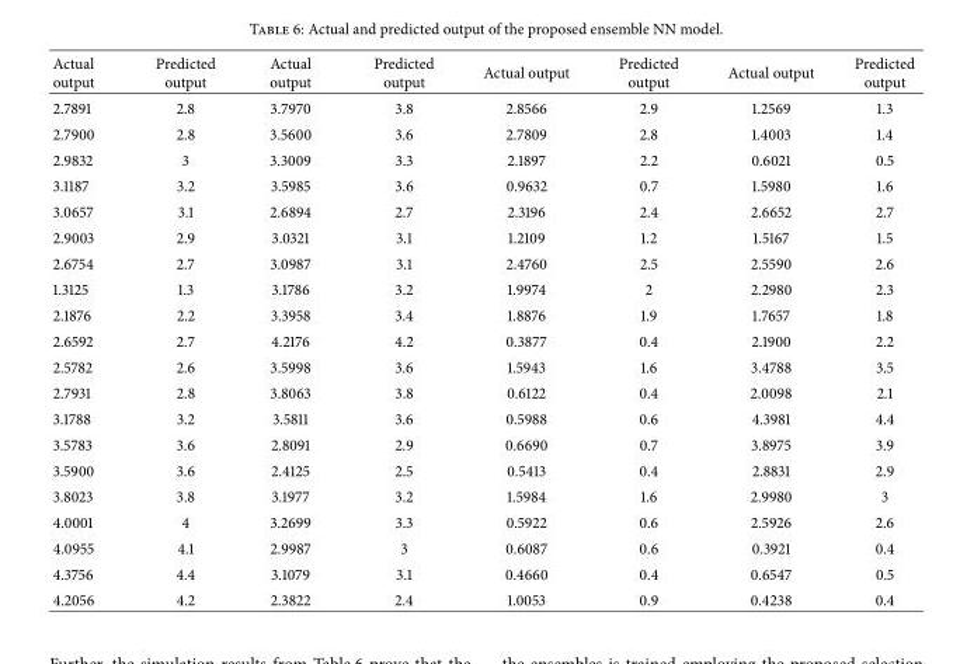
<table><thead><tr><td>Actual output</td><td>Predicted output</td><td>Actual output</td><td>Predicted output</td><td>Actual output</td><td>Predicted output</td><td>Actual output</td><td>Predicted output</td></tr></thead><tbody><tr><td>2.7891</td><td>2.8</td><td>3.7970</td><td>3.8</td><td>2.8566</td><td>2.9</td><td>1.2569</td><td>1.3</td></tr><tr><td>2.7900</td><td>2.8</td><td>3.5600</td><td>3.6</td><td>2.7809</td><td>2.8</td><td>1.4003</td><td>1.4</td></tr><tr><td>2.9832</td><td>3</td><td>3.3009</td><td>3.3</td><td>2.1897</td><td>2.2</td><td>0.6021</td><td>0.5</td></tr><tr><td>3.1187</td><td>3.2</td><td>3.5985</td><td>3.6</td><td>0.9632</td><td>0.7</td><td>1.5980</td><td>1.6</td></tr><tr><td>3.0657</td><td>3.1</td><td>2.6894</td><td>2.7</td><td>2.3196</td><td>2.4</td><td>2.6652</td><td>2.7</td></tr><tr><td>2.9003</td><td>2.9</td><td>3.0321</td><td>3.1</td><td>1.2109</td><td>1.2</td><td>1.5167</td><td>1.5</td></tr><tr><td>2.6754</td><td>2.7</td><td>3.0987</td><td>3.1</td><td>2.4760</td><td>2.5</td><td>2.5590</td><td>2.6</td></tr><tr><td>1.3125</td><td>1.3</td><td>3.1786</td><td>3.2</td><td>1.9974</td><td>2</td><td>2.2980</td><td>2.3</td></tr><tr><td>2.1876</td><td>2.2</td><td>3.3958</td><td>3.4</td><td>1.8876</td><td>1.9</td><td>1.7657</td><td>1.8</td></tr><tr><td>2.6592</td><td>2.7</td><td>4.2176</td><td>4.2</td><td>0.3877</td><td>0.4</td><td>2.1900</td><td>2.2</td></tr><tr><td>2.5782</td><td>2.6</td><td>3.5998</td><td>3.6</td><td>1.5943</td><td>1.6</td><td>3.4788</td><td>3.5</td></tr><tr><td>2.7931</td><td>2.8</td><td>3.8063</td><td>3.8</td><td>0.6122</td><td>0.4</td><td>2.0098</td><td>2.1</td></tr><tr><td>3.1788</td><td>3.2</td><td>3.5811</td><td>3.6</td><td>0.5988</td><td>0.6</td><td>4.3981</td><td>4.4</td></tr><tr><td>3.5783</td><td>3.6</td><td>2.8091</td><td>2.9</td><td>0.6690</td><td>0.7</td><td>3.8975</td><td>3.9</td></tr><tr><td>3.5900</td><td>3.6</td><td>2.4125</td><td>2.5</td><td>0.5413</td><td>0.4</td><td>2.8831</td><td>2.9</td></tr><tr><td>3.8023</td><td>3.8</td><td>3.1977</td><td>3.2</td><td>1.5984</td><td>1.6</td><td>2.9980</td><td>3</td></tr><tr><td>4.0001</td><td>4</td><td>3.2699</td><td>3.3</td><td>0.5922</td><td>0.6</td><td>2.5926</td><td>2.6</td></tr><tr><td>4.0955</td><td>4.1</td><td>2.9987</td><td>3</td><td>0.6087</td><td>0.6</td><td>0.3921</td><td>0.4</td></tr><tr><td>4.3756</td><td>4.4</td><td>3.1079</td><td>3.1</td><td>0.4660</td><td>0.4</td><td>0.6547</td><td>0.5</td></tr><tr><td>4.2056</td><td>4.2</td><td>2.3822</td><td>2.4</td><td>1.0053</td><td>0.9</td><td>0.4238</td><td>0.4</td></tr></tbody></table>